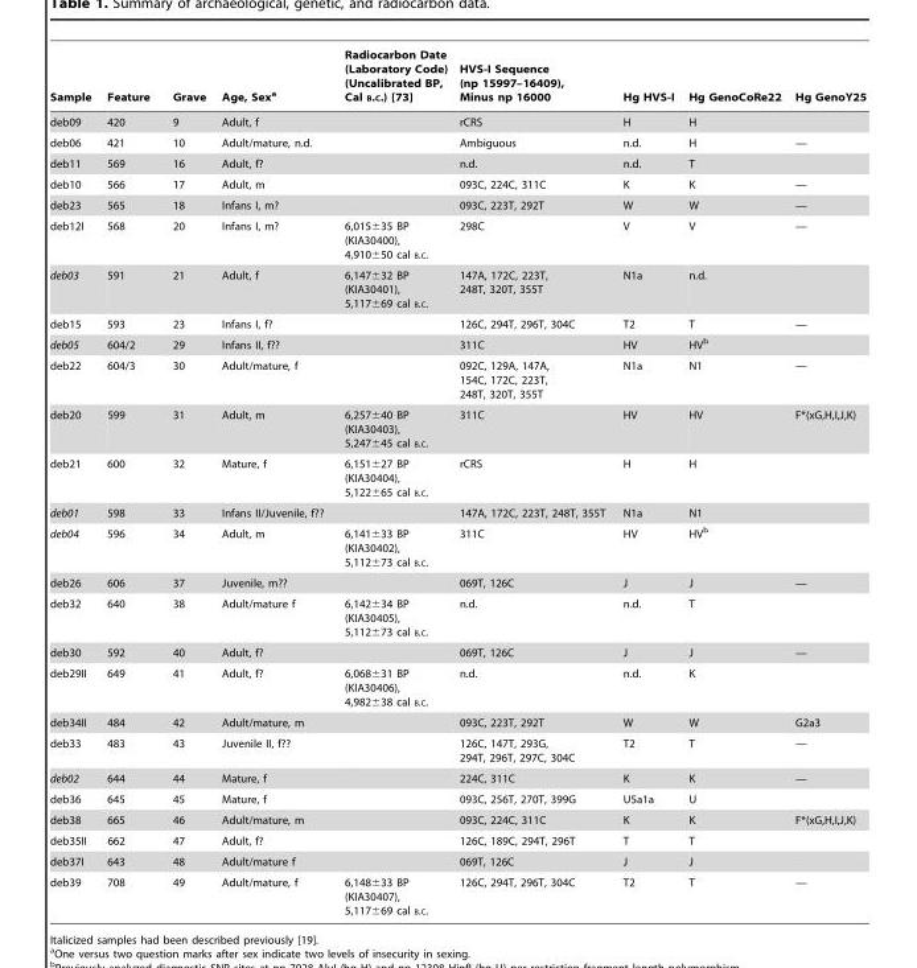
<table><thead><tr><td>Sample</td><td>Feature</td><td>Grave</td><td>Age, Sex<sup>a</sup></td><td>Radiocarbon Date (Laboratory Code) (Uncalibrated BP, Cal B.C.) [73]</td><td>HVS-I Sequence (np 15997–16409), Minus np 16000</td><td>Hg HVS-I</td><td>Hg GenoCoRe22</td><td>Hg GenoY25</td></tr></thead><tbody><tr><td>deb09</td><td>420</td><td>9</td><td>Adult, f</td><td></td><td>rCRS</td><td>H</td><td>H</td><td></td></tr><tr><td>deb06</td><td>421</td><td>10</td><td>Adult/mature, n.d.</td><td></td><td>Ambiguous</td><td>n.d.</td><td>H</td><td>—</td></tr><tr><td>deb11</td><td>569</td><td>16</td><td>Adult, f?</td><td></td><td>n.d.</td><td>n.d.</td><td>T</td><td></td></tr><tr><td>deb10</td><td>566</td><td>17</td><td>Adult, m</td><td></td><td>093C, 224C, 311C</td><td>K</td><td>K</td><td>—</td></tr><tr><td>deb23</td><td>565</td><td>18</td><td>Infans I, m?</td><td></td><td>093C, 223T, 292T</td><td>W</td><td>W</td><td>—</td></tr><tr><td>deb12I</td><td>568</td><td>20</td><td>Infans I, m?</td><td>6,015±35 BP (KIA30400), 4,910±50 cal B.C.</td><td>298C</td><td>V</td><td>V</td><td>—</td></tr><tr><td>deb03</td><td>591</td><td>21</td><td>Adult, f</td><td>6,147±32 BP (KIA30401), 5,117±69 cal B.C.</td><td>147A, 172C, 223T, 248T, 320T, 355T</td><td>N1a</td><td>n.d.</td><td></td></tr><tr><td>deb15</td><td>593</td><td>23</td><td>Infans I, f?</td><td></td><td>126C, 294T, 296T, 304C</td><td>T2</td><td>T</td><td>—</td></tr><tr><td>deb05</td><td>604/2</td><td>29</td><td>Infans II, f??</td><td></td><td>311C</td><td>HV</td><td>HV<sup>b</sup></td><td></td></tr><tr><td>deb22</td><td>604/3</td><td>30</td><td>Adult/mature, f</td><td></td><td>092C, 129A, 147A, 154C, 172C, 223T, 248T, 320T, 355T</td><td>N1a</td><td>N1</td><td>—</td></tr><tr><td>deb20</td><td>599</td><td>31</td><td>Adult, m</td><td>6,257±40 BP (KIA30403), 5,247±45 cal B.C.</td><td>311C</td><td>HV</td><td>HV</td><td>F*(xG,H,I,J,K)</td></tr><tr><td>deb21</td><td>600</td><td>32</td><td>Mature, f</td><td>6,151±27 BP (KIA30404), 5,122±65 cal B.C.</td><td>rCRS</td><td>H</td><td>H</td><td></td></tr><tr><td>deb01</td><td>598</td><td>33</td><td>Infans II/Juvenile, f??</td><td></td><td>147A, 172C, 223T, 248T, 355T</td><td>N1a</td><td>N1</td><td></td></tr><tr><td>deb04</td><td>596</td><td>34</td><td>Adult, m</td><td>6,141±33 BP (KIA30402), 5,112±73 cal B.C.</td><td>311C</td><td>HV</td><td>HV<sup>b</sup></td><td></td></tr><tr><td>deb26</td><td>606</td><td>37</td><td>Juvenile, m??</td><td></td><td>069T, 126C</td><td>J</td><td>J</td><td>—</td></tr><tr><td>deb32</td><td>640</td><td>38</td><td>Adult/mature f</td><td>6,142±34 BP (KIA30405), 5,112±73 cal B.C.</td><td>n.d.</td><td>n.d.</td><td>T</td><td></td></tr><tr><td>deb30</td><td>592</td><td>40</td><td>Adult, f?</td><td></td><td>069T, 126C</td><td>J</td><td>J</td><td>—</td></tr><tr><td>deb29II</td><td>649</td><td>41</td><td>Adult, f?</td><td>6,068±31 BP (KIA30406), 4,982±38 cal B.C.</td><td>n.d.</td><td>n.d.</td><td>K</td><td></td></tr><tr><td>deb34II</td><td>484</td><td>42</td><td>Adult/mature, m</td><td></td><td>093C, 223T, 292T</td><td>W</td><td>W</td><td>G2a3</td></tr><tr><td>deb33</td><td>483</td><td>43</td><td>Juvenile II, f??</td><td></td><td>126C, 147T, 293G, 294T, 296T, 297C, 304C</td><td>T2</td><td>T</td><td>—</td></tr><tr><td>deb02</td><td>644</td><td>44</td><td>Mature, f</td><td></td><td>224C, 311C</td><td>K</td><td>K</td><td>—</td></tr><tr><td>deb36</td><td>645</td><td>45</td><td>Mature, f</td><td></td><td>093C, 256T, 270T, 399G</td><td>U5a1a</td><td>U</td><td></td></tr><tr><td>deb38</td><td>665</td><td>46</td><td>Adult/mature, m</td><td></td><td>093C, 224C, 311C</td><td>K</td><td>K</td><td>F*(xG,H,I,J,K)</td></tr><tr><td>deb35II</td><td>662</td><td>47</td><td>Adult, f?</td><td></td><td>126C, 189C, 294T, 296T</td><td>T</td><td>T</td><td></td></tr><tr><td>deb37I</td><td>643</td><td>48</td><td>Adult/mature f</td><td></td><td>069T, 126C</td><td>J</td><td>J</td><td></td></tr><tr><td>deb39</td><td>708</td><td>49</td><td>Adult/mature, f</td><td>6,148±33 BP (KIA30407), 5,117±69 cal B.C.</td><td>126C, 294T, 296T, 304C</td><td>T2</td><td>T</td><td>—</td></tr></tbody></table>